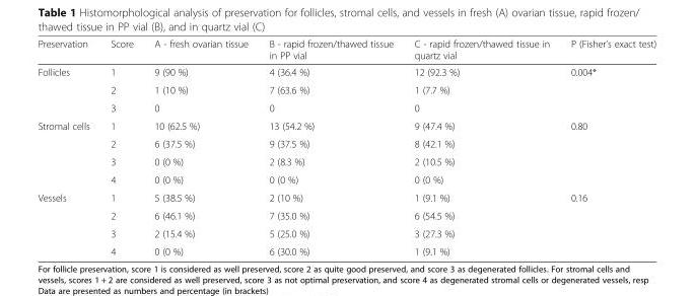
<table><thead><tr><td>Preservation</td><td>Score</td><td>A - fresh ovarian tissue</td><td>B - rapid frozen/thawed tissue in PP vial</td><td>C - rapid frozen/thawed tissue in quartz vial</td><td>P (Fisher’s exact test)</td></tr></thead><tbody><tr><td rowspan="3">Follicles</td><td>1</td><td>9 (90 %)</td><td>4 (36.4 %)</td><td>12 (92.3 %)</td><td>0.004*</td></tr><tr><td>2</td><td>1 (10 %)</td><td>7 (63.6 %)</td><td>1 (7.7 %)</td><td></td></tr><tr><td>3</td><td>0</td><td>0</td><td>0</td><td></td></tr><tr><td rowspan="4">Stromal cells</td><td>1</td><td>10 (62.5 %)</td><td>13 (54.2 %)</td><td>9 (47.4 %)</td><td>0.80</td></tr><tr><td>2</td><td>6 (37.5 %)</td><td>9 (37.5 %)</td><td>8 (42.1 %)</td><td></td></tr><tr><td>3</td><td>0 (0 %)</td><td>2 (8.3 %)</td><td>2 (10.5 %)</td><td></td></tr><tr><td>4</td><td>0 (0 %)</td><td>0 (0 %)</td><td>0 (0 %)</td><td></td></tr><tr><td rowspan="4">Vessels</td><td>1</td><td>5 (38.5 %)</td><td>2 (10 %)</td><td>1 (9.1 %)</td><td>0.16</td></tr><tr><td>2</td><td>6 (46.1 %)</td><td>7 (35.0 %)</td><td>6 (54.5 %)</td><td></td></tr><tr><td>3</td><td>2 (15.4 %)</td><td>5 (25.0 %)</td><td>3 (27.3 %)</td><td></td></tr><tr><td>4</td><td>0 (0 %)</td><td>6 (30.0 %)</td><td>1 (9.1 %)</td><td></td></tr></tbody></table>